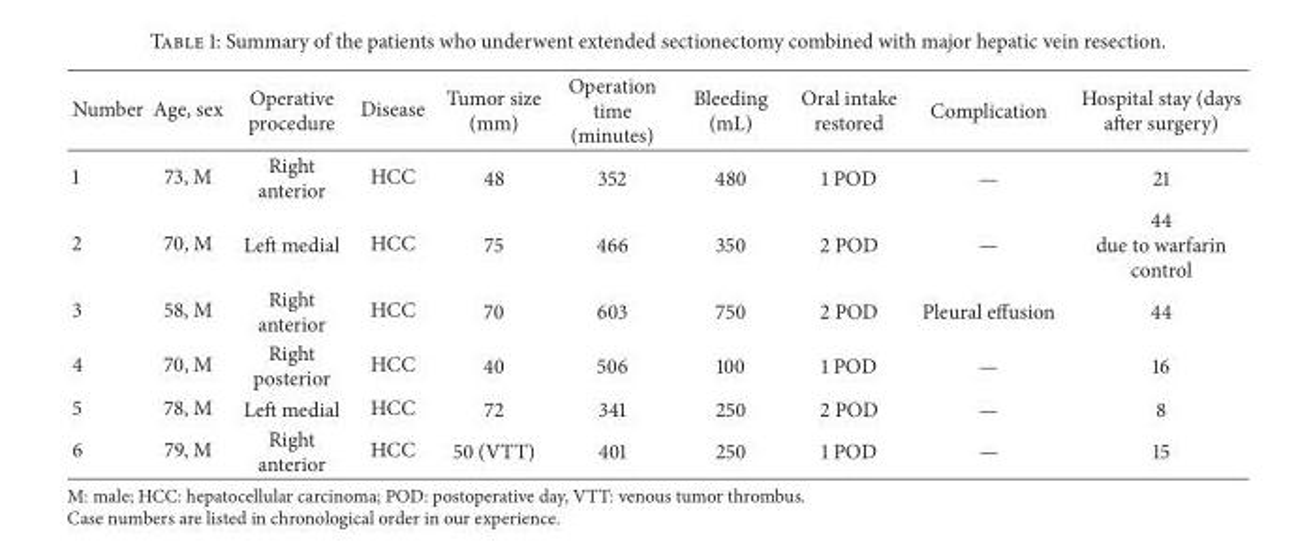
<table><thead><tr><td>Number</td><td>Age, sex</td><td>Operative procedure</td><td>Disease</td><td>Tumor size (mm)</td><td>Operation time (minutes)</td><td>Bleeding (mL)</td><td>Oral intake restored</td><td>Complication</td><td>Hospital stay (days after surgery)</td></tr></thead><tbody><tr><td>1</td><td>73, M</td><td>Right anterior</td><td>HCC</td><td>48</td><td>352</td><td>480</td><td>1 POD</td><td>—</td><td>21</td></tr><tr><td>2</td><td>70, M</td><td>Left medial</td><td>HCC</td><td>75</td><td>466</td><td>350</td><td>2 POD</td><td>—</td><td>44 due to warfarin control</td></tr><tr><td>3</td><td>58, M</td><td>Right anterior</td><td>HCC</td><td>70</td><td>603</td><td>750</td><td>2 POD</td><td>Pleural effusion</td><td>44</td></tr><tr><td>4</td><td>70, M</td><td>Right posterior</td><td>HCC</td><td>40</td><td>506</td><td>100</td><td>1 POD</td><td>—</td><td>16</td></tr><tr><td>5</td><td>78, M</td><td>Left medial</td><td>HCC</td><td>72</td><td>341</td><td>250</td><td>2 POD</td><td>—</td><td>8</td></tr><tr><td>6</td><td>79, M</td><td>Right anterior</td><td>HCC</td><td>50 (VTT)</td><td>401</td><td>250</td><td>1 POD</td><td>—</td><td>15</td></tr></tbody></table>